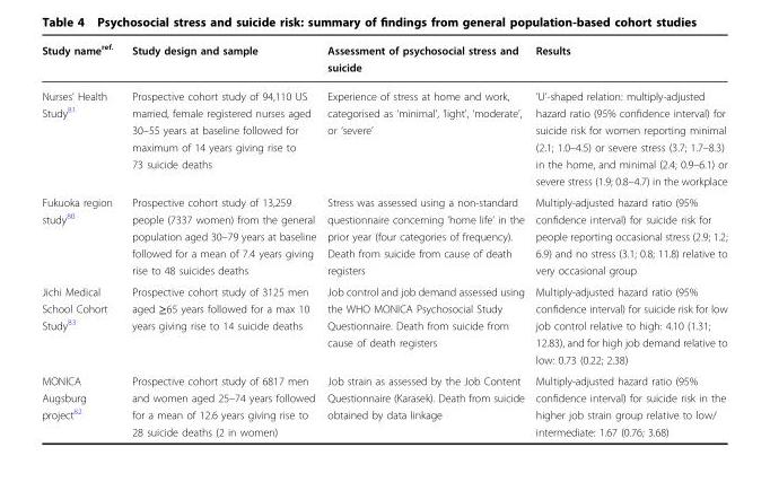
<table><thead><tr><td>Study name<sup>ref.</sup></td><td>Study design and sample</td><td>Assessment of psychosocial stress and suicide</td><td>Results</td></tr></thead><tbody><tr><td>Nurses’ Health Study<sup>81</sup></td><td>Prospective cohort study of 94,110 US married, female registered nurses aged 30–55 years at baseline followed for maximum of 14 years giving rise to 73 suicide deaths</td><td>Experience of stress at home and work, categorised as ‘minimal’, ‘light’, ‘moderate’, or ‘severe’</td><td>‘U’-shaped relation: multiply-adjusted hazard ratio (95% confidence interval) for suicide risk for women reporting minimal (2.1; 1.0–4.5) or severe stress (3.7; 1.7–8.3) in the home, and minimal (2.4; 0.9–6.1) or severe stress (1.9; 0.8–4.7) in the workplace</td></tr><tr><td>Fukuoka region study<sup>80</sup></td><td>Prospective cohort study of 13,259 people (7337 women) from the general population aged 30–79 years at baseline followed for a mean of 7.4 years giving rise to 48 suicides deaths</td><td>Stress was assessed using a non-standard questionnaire concerning ‘home life’ in the prior year (four categories of frequency). Death from suicide from cause of death registers</td><td>Multiply-adjusted hazard ratio (95% confidence interval) for suicide risk for people reporting occasional stress (2.9; 1.2; 6.9) and no stress (3.1; 0.8; 11.8) relative to very occasional group</td></tr><tr><td>Jichi Medical School Cohort Study<sup>83</sup></td><td>Prospective cohort study of 3125 men aged ≥65 years followed for a max 10 years giving rise to 14 suicide deaths</td><td>Job control and job demand assessed using the WHO MONICA Psychosocial Study Questionnaire. Death from suicide from cause of death registers</td><td>Multiply-adjusted hazard ratio (95% confidence interval) for suicide risk for low job control relative to high: 4.10 (1.31; 12.83), and for high job demand relative to low: 0.73 (0.22; 2.38)</td></tr><tr><td>MONICA Augsburg project<sup>82</sup></td><td>Prospective cohort study of 6817 men and women aged 25–74 years followed for a mean of 12.6 years giving rise to 28 suicide deaths (2 in women)</td><td>Job strain as assessed by the Job Content Questionnaire (Karasek). Death from suicide obtained by data linkage</td><td>Multiply-adjusted hazard ratio (95% confidence interval) for suicide risk in the higher job strain group relative to low/ intermediate: 1.67 (0.76; 3.68)</td></tr></tbody></table>